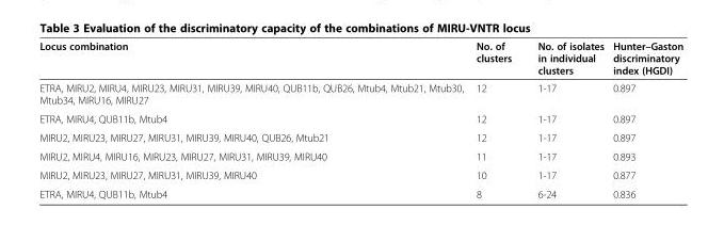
<table><thead><tr><td>Locus combination</td><td>No. of clusters</td><td>No. of isolates in individual clusters</td><td>Hunter–Gaston discriminatory index (HGDI)</td></tr></thead><tbody><tr><td>ETRA, MIRU2, MIRU4, MIRU23, MIRU31, MIRU39, MIRU40, QUB11b, QUB26, Mtub4, Mtub21, Mtub30, Mtub34, MIRU16, MIRU27</td><td>12</td><td>1-17</td><td>0.897</td></tr><tr><td>ETRA, MIRU4, QUB11b, Mtub4</td><td>12</td><td>1-17</td><td>0.897</td></tr><tr><td>MIRU2, MIRU23, MIRU27, MIRU31, MIRU39, MIRU40, QUB26, Mtub21</td><td>12</td><td>1-17</td><td>0.897</td></tr><tr><td>MIRU2, MIRU4, MIRU16, MIRU23, MIRU27, MIRU31, MIRU39, MIRU40</td><td>11</td><td>1-17</td><td>0.893</td></tr><tr><td>MIRU2, MIRU23, MIRU27, MIRU31, MIRU39, MIRU40</td><td>10</td><td>1-17</td><td>0.877</td></tr><tr><td>ETRA, MIRU4, QUB11b, Mtub4</td><td>8</td><td>6-24</td><td>0.836</td></tr></tbody></table>